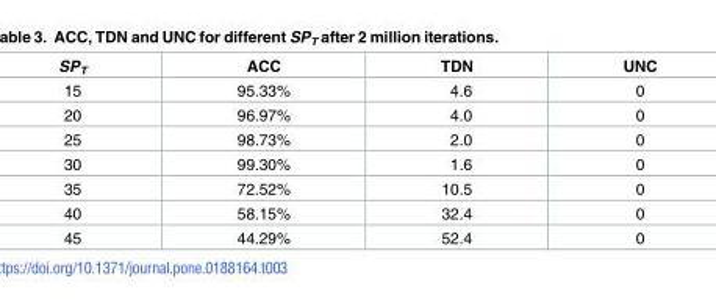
<table><thead><tr><td>SP<sub>T</sub></td><td>ACC</td><td>TDN</td><td>UNC</td></tr></thead><tbody><tr><td>15</td><td>95.33%</td><td>4.6</td><td>0</td></tr><tr><td>20</td><td>96.97%</td><td>4.0</td><td>0</td></tr><tr><td>25</td><td>98.73%</td><td>2.0</td><td>0</td></tr><tr><td>30</td><td>99.30%</td><td>1.6</td><td>0</td></tr><tr><td>35</td><td>72.52%</td><td>10.5</td><td>0</td></tr><tr><td>40</td><td>58.15%</td><td>32.4</td><td>0</td></tr><tr><td>45</td><td>44.29%</td><td>52.4</td><td>0</td></tr></tbody></table>